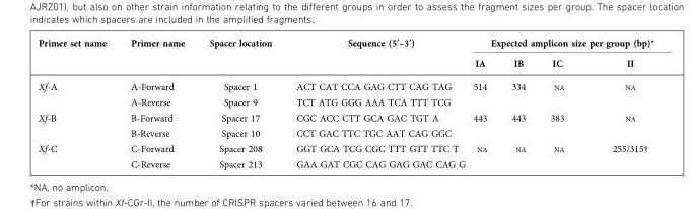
<table><thead><tr><td rowspan="2">Primer set name</td><td rowspan="2">Primer name</td><td rowspan="2">Spacer location</td><td rowspan="2">Sequence (5¢–3¢)</td><td colspan="4">Expected amplicon size per group (bp)*</td></tr><tr><td>IA</td><td>IB</td><td>IC</td><td>II</td></tr></thead><tbody><tr><td rowspan="2">Xf-A</td><td>A-Forward</td><td>Spacer 1</td><td>ACT CAT CCA GAG CTT CAG TAG</td><td rowspan="2">514</td><td rowspan="2">334</td><td rowspan="2">NA</td><td rowspan="2">NA</td></tr><tr><td>A-Reverse</td><td>Spacer 9</td><td>TCT ATG GGG AAA TCA TTT TCG</td></tr><tr><td rowspan="2">Xf-B</td><td>B-Forward</td><td>Spacer 17</td><td>CGC ACC CTT GCA GAC TGT A</td><td rowspan="2">443</td><td rowspan="2">443</td><td rowspan="2">383</td><td rowspan="2">NA</td></tr><tr><td>B-Reverse</td><td>Spacer 10</td><td>CCT GAC TTC TGC AAT CAG GGC</td></tr><tr><td rowspan="2">Xf-C</td><td>C-Forward</td><td>Spacer 208</td><td>GGT GCA TCG CGC TTT GTT TTC T</td><td rowspan="2">NA</td><td rowspan="2">NA</td><td rowspan="2">NA</td><td rowspan="2">255/315†</td></tr><tr><td>C-Reverse</td><td>Spacer 213</td><td>GAA GAT CGC CAG GAG GAC CAG G</td></tr></tbody></table>